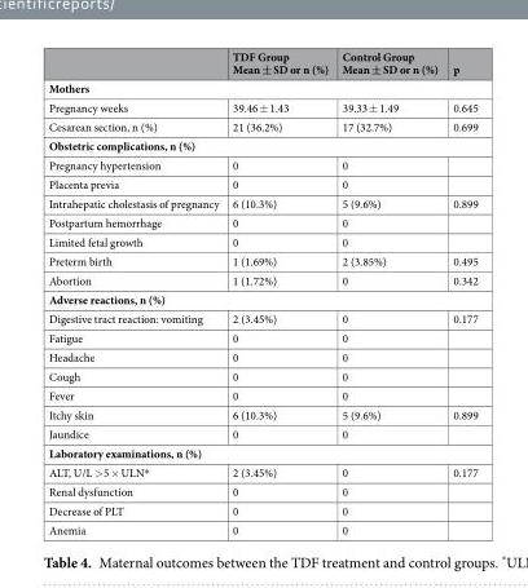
<table><thead><tr><td></td><td>TDF Group Mean ± SD or n (%)</td><td>Control Group Mean ± SD or n (%)</td><td>p</td></tr></thead><tbody><tr><td colspan="4">Mothers</td></tr><tr><td>Pregnancy weeks</td><td>39.46 ± 1.43</td><td>39.33 ± 1.49</td><td>0.645</td></tr><tr><td>Cesarean section, n (%)</td><td>21 (36.2%)</td><td>17 (32.7%)</td><td>0.699</td></tr><tr><td colspan="4">Obstetric complications, n (%)</td></tr><tr><td>Pregnancy hypertension</td><td>0</td><td>0</td><td></td></tr><tr><td>Placenta previa</td><td>0</td><td>0</td><td></td></tr><tr><td>Intrahepatic cholestasis of pregnancy</td><td>6 (10.3%)</td><td>5 (9.6%)</td><td>0.899</td></tr><tr><td>Postpartum hemorrhage</td><td>0</td><td>0</td><td></td></tr><tr><td>Limited fetal growth</td><td>0</td><td>0</td><td></td></tr><tr><td>Preterm birth</td><td>1 (1.69%)</td><td>2 (3.85%)</td><td>0.495</td></tr><tr><td>Abortion</td><td>1 (1.72%)</td><td>0</td><td>0.342</td></tr><tr><td colspan="4">Adverse reactions, n (%)</td></tr><tr><td>Digestive tract reaction: vomiting</td><td>2 (3.45%)</td><td>0</td><td>0.177</td></tr><tr><td>Fatigue</td><td>0</td><td>0</td><td></td></tr><tr><td>Headache</td><td>0</td><td>0</td><td></td></tr><tr><td>Cough</td><td>0</td><td>0</td><td></td></tr><tr><td>Fever</td><td>0</td><td>0</td><td></td></tr><tr><td>Itchy skin</td><td>6 (10.3%)</td><td>5 (9.6%)</td><td>0.899</td></tr><tr><td>Jaundice</td><td>0</td><td>0</td><td></td></tr><tr><td colspan="4">Laboratory examinations, n (%)</td></tr><tr><td>ALT, U/L &gt;5 × ULN*</td><td>2 (3.45%)</td><td>0</td><td>0.177</td></tr><tr><td>Renal dysfunction</td><td>0</td><td>0</td><td></td></tr><tr><td>Decrease of PLT</td><td>0</td><td>0</td><td></td></tr><tr><td>Anemia</td><td>0</td><td>0</td><td></td></tr></tbody></table>